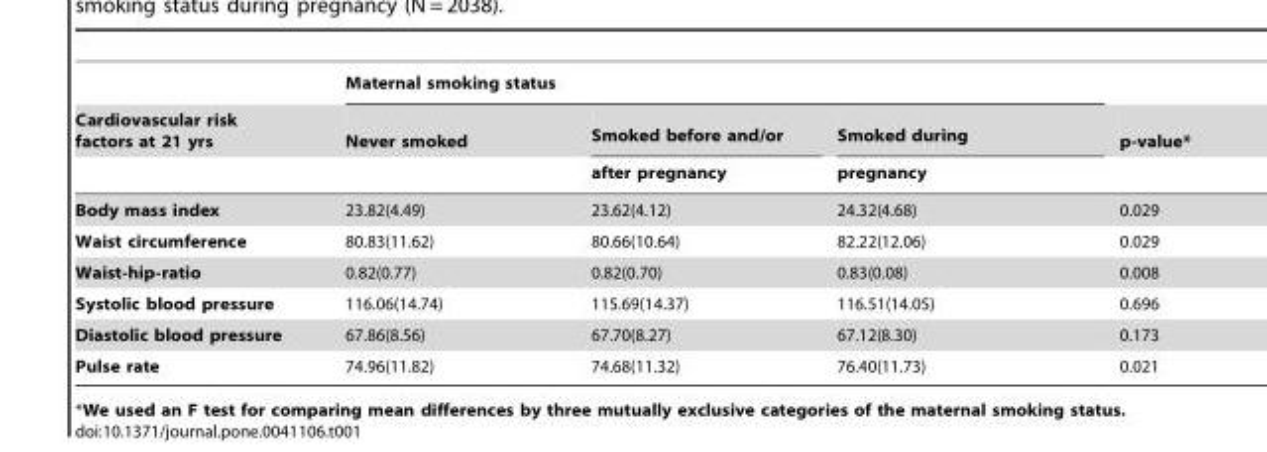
<table><thead><tr><td rowspan="3">Cardiovascular risk factors at 21 yrs</td><td colspan="3">Maternal smoking status</td><td rowspan="3">p-value*</td></tr><tr><td rowspan="2">Never smoked</td><td rowspan="2">Smoked before and/or after pregnancy</td><td rowspan="2">Smoked during pregnancy</td></tr><tr></tr></thead><tbody><tr><td>Body mass index</td><td>23.82(4.49)</td><td>23.62(4.12)</td><td>24.32(4.68)</td><td>0.029</td></tr><tr><td>Waist circumference</td><td>80.83(11.62)</td><td>80.66(10.64)</td><td>82.22(12.06)</td><td>0.029</td></tr><tr><td>Waist-hip-ratio</td><td>0.82(0.77)</td><td>0.82(0.70)</td><td>0.83(0.08)</td><td>0.008</td></tr><tr><td>Systolic blood pressure</td><td>116.06(14.74)</td><td>115.69(14.37)</td><td>116.51(14.05)</td><td>0.696</td></tr><tr><td>Diastolic blood pressure</td><td>67.86(8.56)</td><td>67.70(8.27)</td><td>67.12(8.30)</td><td>0.173</td></tr><tr><td>Pulse rate</td><td>74.96(11.82)</td><td>74.68(11.32)</td><td>76.40(11.73)</td><td>0.021</td></tr></tbody></table>